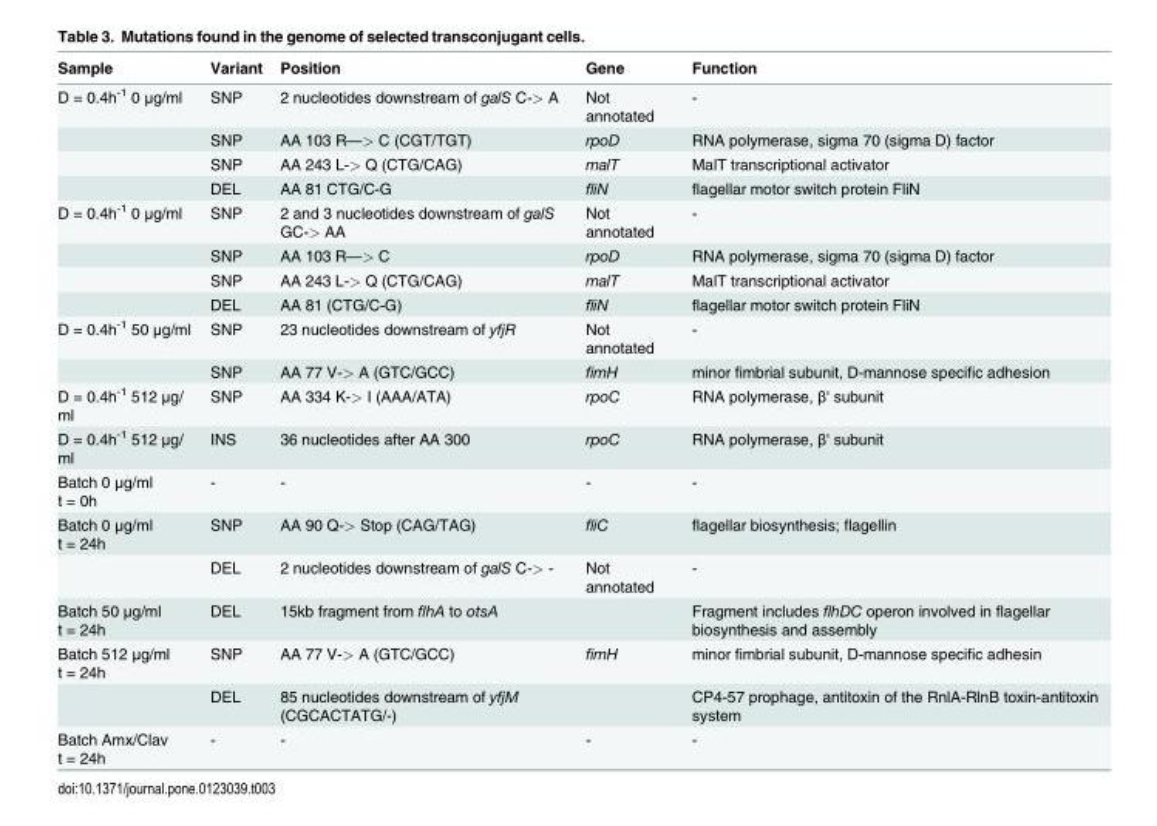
<table><thead><tr><td>Sample</td><td>Variant</td><td>Position</td><td>Gene</td><td>Function</td></tr></thead><tbody><tr><td rowspan="4">D = 0.4h<sup>-1</sup> 0 μg/ml</td><td>SNP</td><td>2 nucleotides downstream of galS C-&gt; A</td><td>Not annotated</td><td>-</td></tr><tr><td>SNP</td><td>AA 103 R—&gt; C (CGT/TGT)</td><td>rpoD</td><td>RNA polymerase, sigma 70 (sigma D) factor</td></tr><tr><td>SNP</td><td>AA 243 L-&gt; Q (CTG/CAG)</td><td>malT</td><td>MalT transcriptional activator</td></tr><tr><td>DEL</td><td>AA 81 CTG/C-G</td><td>fliN</td><td>flagellar motor switch protein FliN</td></tr><tr><td rowspan="4">D = 0.4h<sup>-1</sup> 0 μg/ml</td><td>SNP</td><td>2 and 3 nucleotides downstream of galS GC-&gt; AA</td><td>Not annotated</td><td>-</td></tr><tr><td>SNP</td><td>AA 103 R—&gt; C</td><td>rpoD</td><td>RNA polymerase, sigma 70 (sigma D) factor</td></tr><tr><td>SNP</td><td>AA 243 L-&gt; Q (CTG/CAG)</td><td>malT</td><td>MalT transcriptional activator</td></tr><tr><td>DEL</td><td>AA 81 (CTG/C-G)</td><td>fliN</td><td>flagellar motor switch protein FliN</td></tr><tr><td rowspan="2">D = 0.4h<sup>-1</sup> 50 μg/ml</td><td>SNP</td><td>23 nucleotides downstream of yfjR</td><td>Not annotated</td><td>-</td></tr><tr><td>SNP</td><td>AA 77 V-&gt; A (GTC/GCC)</td><td>fimH</td><td>minor fimbrial subunit, D-mannose specific adhesion</td></tr><tr><td>D = 0.4h<sup>-1</sup> 512 μg/ ml</td><td>SNP</td><td>AA 334 K-&gt; I (AAA/ATA)</td><td>rpoC</td><td>RNA polymerase, β&#x27; subunit</td></tr><tr><td>D = 0.4h<sup>-1</sup> 512 μg/ ml</td><td>INS</td><td>36 nucleotides after AA 300</td><td>rpoC</td><td>RNA polymerase, β&#x27; subunit</td></tr><tr><td>Batch 0 μg/ml t = 0h</td><td>-</td><td>-</td><td>-</td><td>-</td></tr><tr><td rowspan="2">Batch 0 μg/ml t = 24h</td><td>SNP</td><td>AA 90 Q-&gt; Stop (CAG/TAG)</td><td>fliC</td><td>flagellar biosynthesis; flagellin</td></tr><tr><td>DEL</td><td>2 nucleotides downstream of galS C-&gt; -</td><td>Not annotated</td><td>-</td></tr><tr><td>Batch 50 μg/ml t = 24h</td><td>DEL</td><td>15kb fragment from flhA to otsA</td><td></td><td>Fragment includes flhDC operon involved in flagellar biosynthesis and assembly</td></tr><tr><td rowspan="2">Batch 512 μg/ml t = 24h</td><td>SNP</td><td>AA 77 V-&gt; A (GTC/GCC)</td><td>fimH</td><td>minor fimbrial subunit, D-mannose specific adhesin</td></tr><tr><td>DEL</td><td>85 nucleotides downstream of yfjM (CGCACTATG/-)</td><td></td><td>CP4-57 prophage, antitoxin of the RnlA-RlnB toxin-antitoxin system</td></tr><tr><td>Batch Amx/Clav t = 24h</td><td>-</td><td>-</td><td>-</td><td>-</td></tr></tbody></table>